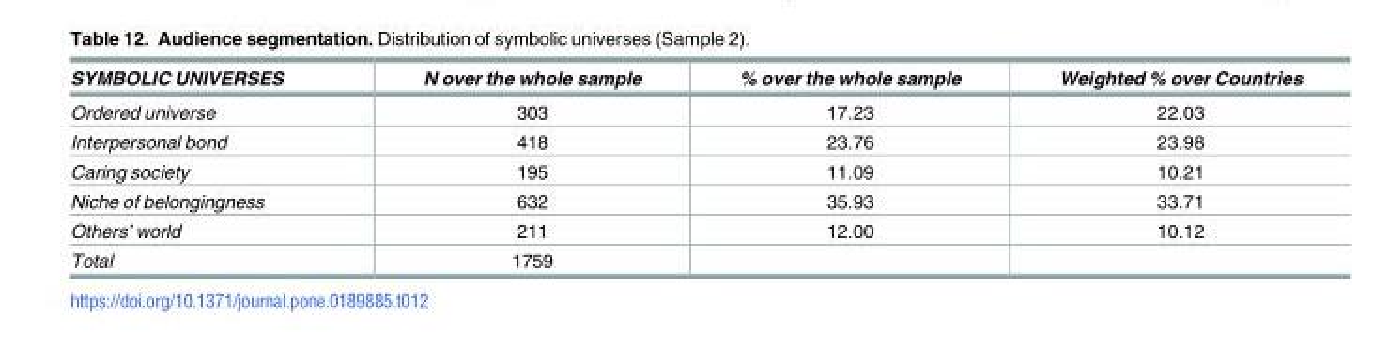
<table><thead><tr><td>SYMBOLIC UNIVERSES</td><td>N over the whole sample</td><td>% over the whole sample</td><td>Weighted % over Countries</td></tr></thead><tbody><tr><td>Ordered universe</td><td>303</td><td>17.23</td><td>22.03</td></tr><tr><td>Interpersonal bond</td><td>418</td><td>23.76</td><td>23.98</td></tr><tr><td>Caring society</td><td>195</td><td>11.09</td><td>10.21</td></tr><tr><td>Niche of belongingness</td><td>632</td><td>35.93</td><td>33.71</td></tr><tr><td>Others’ world</td><td>211</td><td>12.00</td><td>10.12</td></tr><tr><td>Total</td><td>1759</td><td></td><td></td></tr></tbody></table>